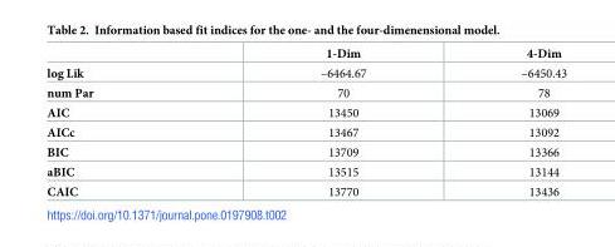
<table><thead><tr><td></td><td>1-Dim</td><td>4-Dim</td></tr></thead><tbody><tr><td>log Lik</td><td>–6464.67</td><td>–6450.43</td></tr><tr><td>num Par</td><td>70</td><td>78</td></tr><tr><td>AIC</td><td>13450</td><td>13069</td></tr><tr><td>AICc</td><td>13467</td><td>13092</td></tr><tr><td>BIC</td><td>13709</td><td>13366</td></tr><tr><td>aBIC</td><td>13515</td><td>13144</td></tr><tr><td>CAIC</td><td>13770</td><td>13436</td></tr></tbody></table>